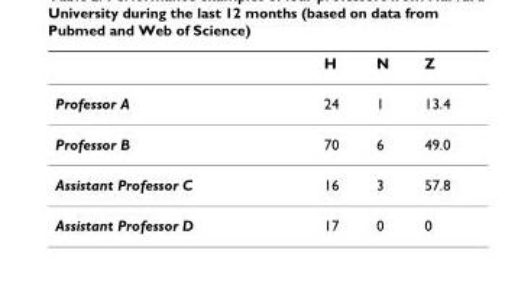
<table><thead><tr><td></td><td>H</td><td>N</td><td>Z</td></tr></thead><tbody><tr><td>Professor A</td><td>24</td><td>1</td><td>13.4</td></tr><tr><td>Professor B</td><td>70</td><td>6</td><td>49.0</td></tr><tr><td>Assistant Professor C</td><td>16</td><td>3</td><td>57.8</td></tr><tr><td>Assistant Professor D</td><td>17</td><td>0</td><td>0</td></tr></tbody></table>